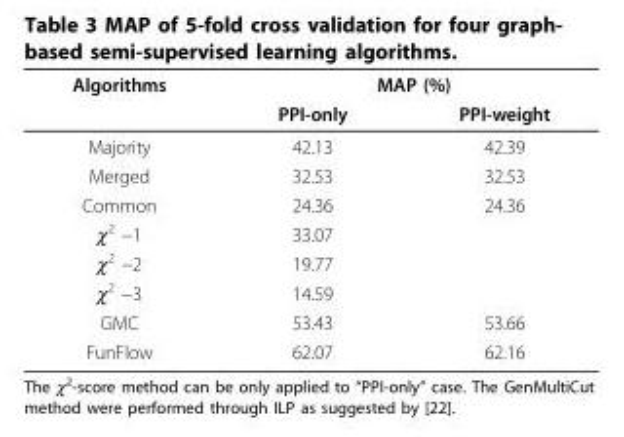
<table><thead><tr><td rowspan="2">Algorithms</td><td colspan="2">MAP (%)</td></tr><tr><td>PPI-only</td><td>PPI-weight</td></tr></thead><tbody><tr><td>Majority</td><td>42.13</td><td>42.39</td></tr><tr><td>Merged</td><td>32.53</td><td>32.53</td></tr><tr><td>Common</td><td>24.36</td><td>24.36</td></tr><tr><td>χ<sup>2</sup> −1</td><td>33.07</td><td></td></tr><tr><td>χ<sup>2</sup> −2</td><td>19.77</td><td></td></tr><tr><td>χ<sup>2</sup> −3</td><td>14.59</td><td></td></tr><tr><td>GMC</td><td>53.43</td><td>53.66</td></tr><tr><td>FunFlow</td><td>62.07</td><td>62.16</td></tr></tbody></table>